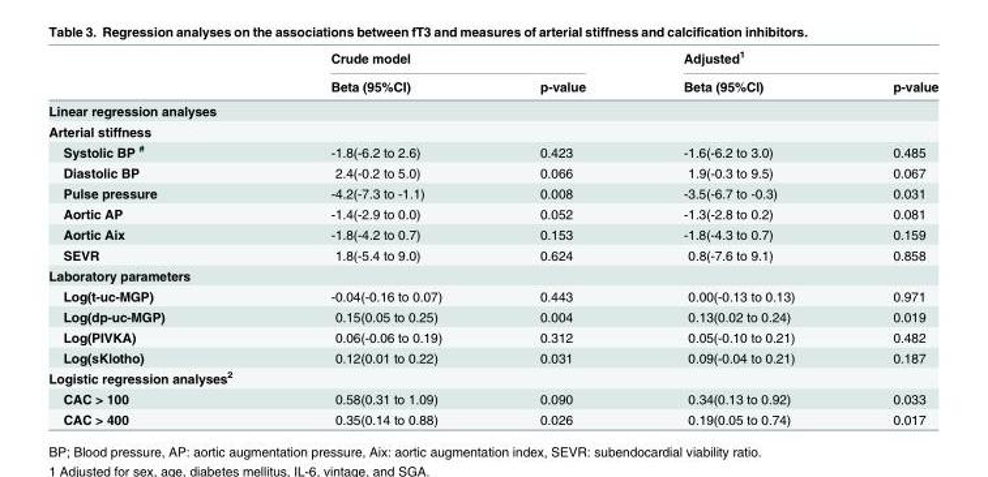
<table><thead><tr><td rowspan="2"></td><td colspan="2">Crude model</td><td colspan="2">Adjusted<sup>1</sup></td></tr><tr><td>Beta (95%CI)</td><td>p-value</td><td>Beta (95%CI)</td><td>p-value</td></tr></thead><tbody><tr><td colspan="5">Linear regression analyses</td></tr><tr><td colspan="5">Arterial stiffness</td></tr><tr><td>Systolic BP <sup>#</sup></td><td>-1.8(-6.2 to 2.6)</td><td>0.423</td><td>-1.6(-6.2 to 3.0)</td><td>0.485</td></tr><tr><td>Diastolic BP</td><td>2.4(-0.2 to 5.0)</td><td>0.066</td><td>1.9(-0.3 to 9.5)</td><td>0.067</td></tr><tr><td>Pulse pressure</td><td>-4.2(-7.3 to -1.1)</td><td>0.008</td><td>-3.5(-6.7 to -0.3)</td><td>0.031</td></tr><tr><td>Aortic AP</td><td>-1.4(-2.9 to 0.0)</td><td>0.052</td><td>-1.3(-2.8 to 0.2)</td><td>0.081</td></tr><tr><td>Aortic Aix</td><td>-1.8(-4.2 to 0.7)</td><td>0.153</td><td>-1.8(-4.3 to 0.7)</td><td>0.159</td></tr><tr><td>SEVR</td><td>1.8(-5.4 to 9.0)</td><td>0.624</td><td>0.8(-7.6 to 9.1)</td><td>0.858</td></tr><tr><td colspan="5">Laboratory parameters</td></tr><tr><td>Log(t-uc-MGP)</td><td>-0.04(-0.16 to 0.07)</td><td>0.443</td><td>0.00(-0.13 to 0.13)</td><td>0.971</td></tr><tr><td>Log(dp-uc-MGP)</td><td>0.15(0.05 to 0.25)</td><td>0.004</td><td>0.13(0.02 to 0.24)</td><td>0.019</td></tr><tr><td>Log(PIVKA)</td><td>0.06(-0.06 to 0.19)</td><td>0.312</td><td>0.05(-0.10 to 0.21)</td><td>0.482</td></tr><tr><td>Log(sKlotho)</td><td>0.12(0.01 to 0.22)</td><td>0.031</td><td>0.09(-0.04 to 0.21)</td><td>0.187</td></tr><tr><td colspan="5">Logistic regression analyses<sup>2</sup></td></tr><tr><td>CAC &gt; 100</td><td>0.58(0.31 to 1.09)</td><td>0.090</td><td>0.34(0.13 to 0.92)</td><td>0.033</td></tr><tr><td>CAC &gt; 400</td><td>0.35(0.14 to 0.88)</td><td>0.026</td><td>0.19(0.05 to 0.74)</td><td>0.017</td></tr></tbody></table>